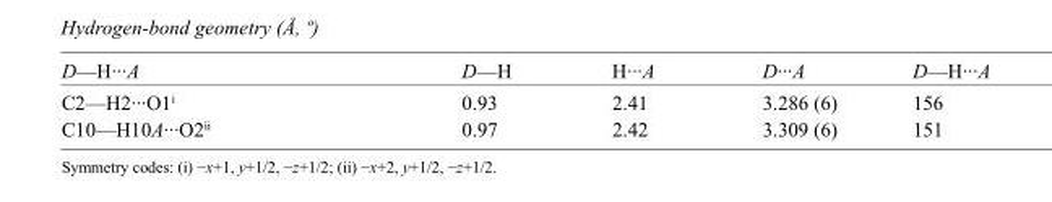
<table><tbody><tr><td>D—H···A</td><td>D—H</td><td>H···A</td><td>D···A</td><td>D—H···A</td></tr><tr><td>C2—H2···O1<sup>i</sup></td><td>0.93</td><td>2.41</td><td>3.286 (6)</td><td>156</td></tr><tr><td>C10—H10A···O2<sup>ii</sup></td><td>0.97</td><td>2.42</td><td>3.309 (6)</td><td>151</td></tr></tbody></table>